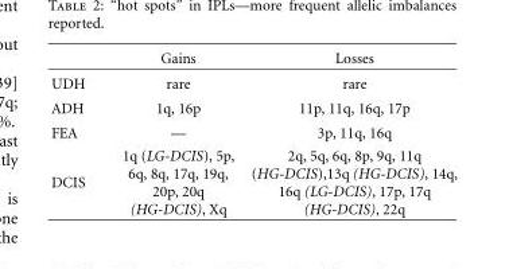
<table><thead><tr><td></td><td>Gains</td><td>Losses</td></tr></thead><tbody><tr><td>UDH</td><td>rare</td><td>rare</td></tr><tr><td>ADH</td><td>1q, 16p</td><td>11p, 11q, 16q, 17p</td></tr><tr><td>FEA</td><td>—</td><td>3p, 11q, 16q</td></tr><tr><td>DCIS</td><td>1q (LG-DCIS), 5p, 6q, 8q, 17q, 19q, 20p, 20q (HG-DCIS), Xq</td><td>2q, 5q, 6q, 8p, 9q, 11q (HG-DCIS),13q (HG-DCIS), 14q, 16q (LG-DCIS), 17p, 17q (HG-DCIS), 22q</td></tr></tbody></table>